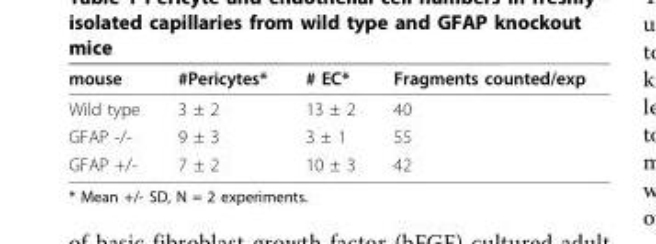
<table><thead><tr><td>mouse</td><td>#Pericytes*</td><td># EC*</td><td>Fragments counted/exp</td></tr></thead><tbody><tr><td>Wild type</td><td>3 ± 2</td><td>13 ± 2</td><td>40</td></tr><tr><td>GFAP -/-</td><td>9 ± 3</td><td>3 ± 1</td><td>55</td></tr><tr><td>GFAP +/-</td><td>7 ± 2</td><td>10 ± 3</td><td>42</td></tr></tbody></table>